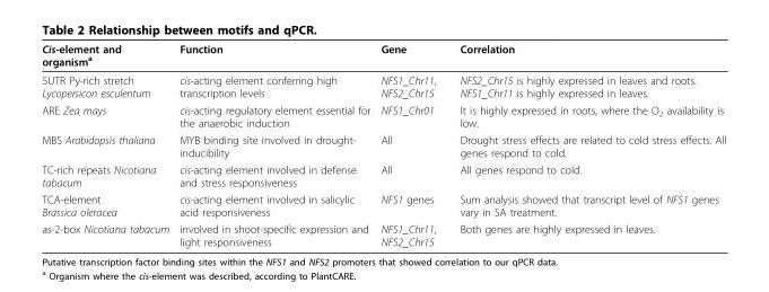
<table><thead><tr><td>Cis-element and organism<sup>a</sup></td><td>Function</td><td>Gene</td><td>Correlation</td></tr></thead><tbody><tr><td>5UTR Py-rich stretch Lycopersicon esculentum</td><td>cis-acting element conferring high transcription levels</td><td>NFS1_Chr11, NFS2_Chr15</td><td>NFS2_Chr15 is highly expressed in leaves and roots. NFS1_Chr11 is highly expressed in leaves.</td></tr><tr><td>ARE Zea mays</td><td>cis-acting regulatory element essential for the anaerobic induction</td><td>NFS1_Chr01</td><td>It is highly expressed in roots, where the O<sub>2</sub> availability is low.</td></tr><tr><td>MBS Arabidopsis thaliana</td><td>MYB binding site involved in drought- inducibility</td><td>All</td><td>Drought stress effects are related to cold stress effects. All genes respond to cold.</td></tr><tr><td>TC-rich repeats Nicotiana tabacum</td><td>cis-acting element involved in defense and stress responsiveness</td><td>All</td><td>All genes respond to cold.</td></tr><tr><td>TCA-element Brassica oleracea</td><td>cis-acting element involved in salicylic acid responsiveness</td><td>NFS1 genes</td><td>Sum analysis showed that transcript level of NFS1 genes vary in SA treatment.</td></tr><tr><td>as-2-box Nicotiana tabacum</td><td>involved in shoot-specific expression and light responsiveness</td><td>NFS1_Chr11, NFS2_Chr15</td><td>Both genes are highly expressed in leaves.</td></tr></tbody></table>